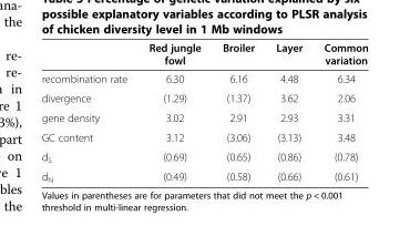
<table><thead><tr><td></td><td>Red jungle fowl</td><td>Broiler</td><td>Layer</td><td>Common variation</td></tr></thead><tbody><tr><td>recombination rate</td><td>6.30</td><td>6.16</td><td>4.48</td><td>6.34</td></tr><tr><td>divergence</td><td>(1.29)</td><td>(1.37)</td><td>3.62</td><td>2.06</td></tr><tr><td>gene density</td><td>3.02</td><td>2.91</td><td>2.93</td><td>3.31</td></tr><tr><td>GC content</td><td>3.12</td><td>(3.06)</td><td>(3.13)</td><td>3.48</td></tr><tr><td>d<sub>S</sub></td><td>(0.69)</td><td>(0.65)</td><td>(0.86)</td><td>(0.78)</td></tr><tr><td>d<sub>N</sub></td><td>(0.49)</td><td>(0.58)</td><td>(0.66)</td><td>(0.61)</td></tr></tbody></table>